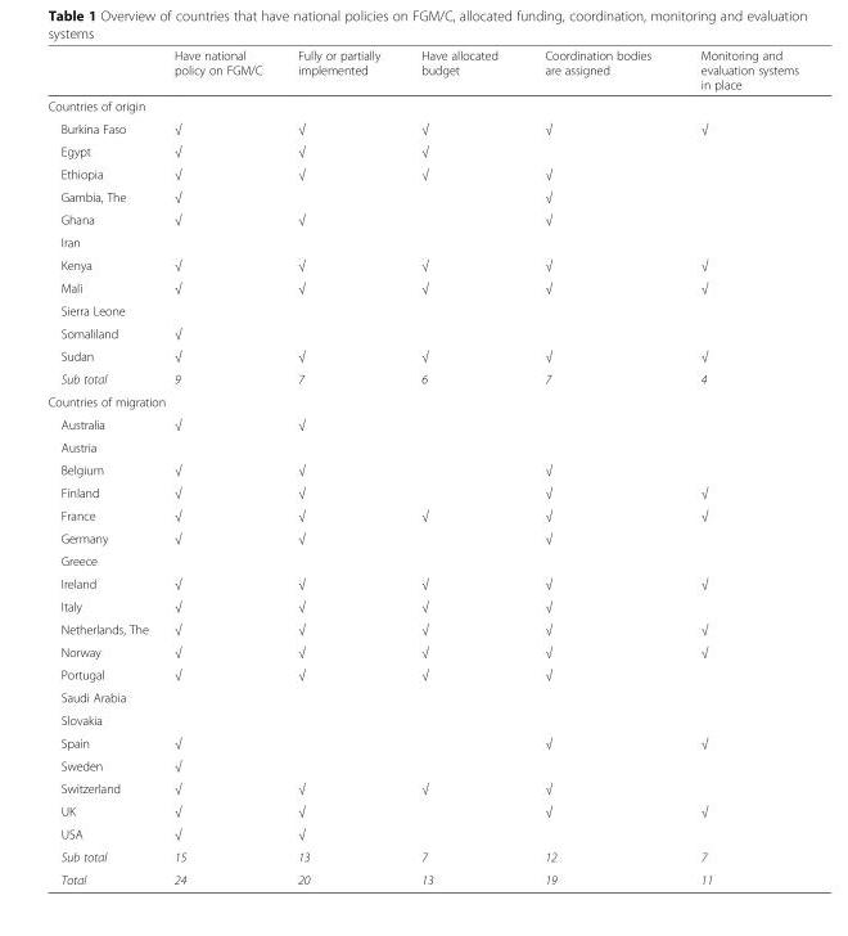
<table><thead><tr><td></td><td>Have national policy on FGM/C</td><td>Fully or partially implemented</td><td>Have allocated budget</td><td>Coordination bodies are assigned</td><td>Monitoring and evaluation systems in place</td></tr></thead><tbody><tr><td colspan="6">Countries of origin</td></tr><tr><td>Burkina Faso</td><td>√</td><td>√</td><td>√</td><td>√</td><td>√</td></tr><tr><td>Egypt</td><td>√</td><td>√</td><td>√</td><td></td><td></td></tr><tr><td>Ethiopia</td><td>√</td><td>√</td><td>√</td><td>√</td><td></td></tr><tr><td>Gambia, The</td><td>√</td><td></td><td></td><td>√</td><td></td></tr><tr><td>Ghana</td><td>√</td><td>√</td><td></td><td>√</td><td></td></tr><tr><td colspan="6">Iran</td></tr><tr><td>Kenya</td><td>√</td><td>√</td><td>√</td><td>√</td><td>√</td></tr><tr><td>Mali</td><td>√</td><td>√</td><td>√</td><td>√</td><td>√</td></tr><tr><td colspan="6">Sierra Leone</td></tr><tr><td>Somaliland</td><td>√</td><td></td><td></td><td></td><td></td></tr><tr><td>Sudan</td><td>√</td><td>√</td><td>√</td><td>√</td><td>√</td></tr><tr><td>Sub total</td><td>9</td><td>7</td><td>6</td><td>7</td><td>4</td></tr><tr><td colspan="6">Countries of migration</td></tr><tr><td>Australia</td><td>√</td><td>√</td><td></td><td></td><td></td></tr><tr><td colspan="6">Austria</td></tr><tr><td>Belgium</td><td>√</td><td>√</td><td></td><td>√</td><td></td></tr><tr><td>Finland</td><td>√</td><td>√</td><td></td><td>√</td><td>√</td></tr><tr><td>France</td><td>√</td><td>√</td><td>√</td><td>√</td><td>√</td></tr><tr><td>Germany</td><td>√</td><td>√</td><td></td><td>√</td><td></td></tr><tr><td colspan="6">Greece</td></tr><tr><td>Ireland</td><td>√</td><td>√</td><td>√</td><td>√</td><td>√</td></tr><tr><td>Italy</td><td>√</td><td>√</td><td>√</td><td>√</td><td></td></tr><tr><td>Netherlands, The</td><td>√</td><td>√</td><td>√</td><td>√</td><td>√</td></tr><tr><td>Norway</td><td>√</td><td>√</td><td>√</td><td>√</td><td>√</td></tr><tr><td>Portugal</td><td>√</td><td>√</td><td>√</td><td>√</td><td></td></tr><tr><td colspan="6">Saudi Arabia</td></tr><tr><td colspan="6">Slovakia</td></tr><tr><td>Spain</td><td>√</td><td></td><td></td><td>√</td><td>√</td></tr><tr><td>Sweden</td><td>√</td><td></td><td></td><td></td><td></td></tr><tr><td>Switzerland</td><td>√</td><td>√</td><td>√</td><td>√</td><td></td></tr><tr><td>UK</td><td>√</td><td>√</td><td></td><td>√</td><td>√</td></tr><tr><td>USA</td><td>√</td><td>√</td><td></td><td></td><td></td></tr><tr><td>Sub total</td><td>15</td><td>13</td><td>7</td><td>12</td><td>7</td></tr><tr><td>Total</td><td>24</td><td>20</td><td>13</td><td>19</td><td>11</td></tr></tbody></table>